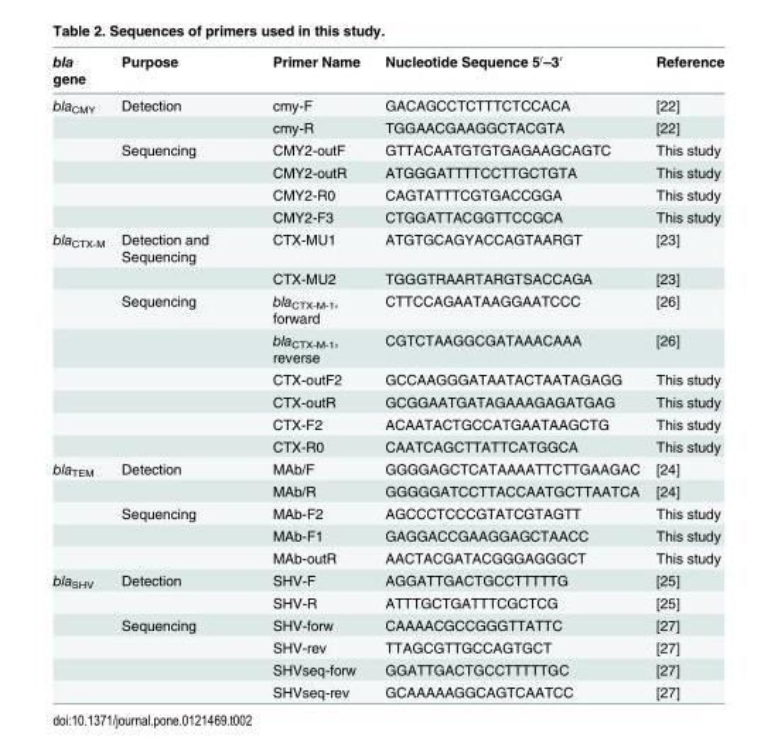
<table><thead><tr><td>bla gene</td><td>Purpose</td><td>Primer Name</td><td>Nucleotide Sequence 5′–3′</td><td>Reference</td></tr></thead><tbody><tr><td rowspan="6">bla<sub>CMY</sub></td><td>Detection</td><td>cmy-F</td><td>GACAGCCTCTTTCTCCACA</td><td>[22]</td></tr><tr><td></td><td>cmy-R</td><td>TGGAACGAAGGCTACGTA</td><td>[22]</td></tr><tr><td>Sequencing</td><td>CMY2-outF</td><td>GTTACAATGTGTGAGAAGCAGTC</td><td>This study</td></tr><tr><td></td><td>CMY2-outR</td><td>ATGGGATTTTCCTTGCTGTA</td><td>This study</td></tr><tr><td></td><td>CMY2-R0</td><td>CAGTATTTCGTGACCGGA</td><td>This study</td></tr><tr><td></td><td>CMY2-F3</td><td>CTGGATTACGGTTCCGCA</td><td>This study</td></tr><tr><td rowspan="8">bla<sub>CTX-M</sub></td><td>Detection and Sequencing</td><td>CTX-MU1</td><td>ATGTGCAGYACCAGTAARGT</td><td>[23]</td></tr><tr><td></td><td>CTX-MU2</td><td>TGGGTRAARTARGTSACCAGA</td><td>[23]</td></tr><tr><td>Sequencing</td><td>bla<sub>CTX-M-1</sub>, forward</td><td>CTTCCAGAATAAGGAATCCC</td><td>[26]</td></tr><tr><td></td><td>bla<sub>CTX-M-1</sub>, reverse</td><td>CGTCTAAGGCGATAAACAAA</td><td>[26]</td></tr><tr><td></td><td>CTX-outF2</td><td>GCCAAGGGATAATACTAATAGAGG</td><td>This study</td></tr><tr><td></td><td>CTX-outR</td><td>GCGGAATGATAGAAAGAGATGAG</td><td>This study</td></tr><tr><td></td><td>CTX-F2</td><td>ACAATACTGCCATGAATAAGCTG</td><td>This study</td></tr><tr><td></td><td>CTX-R0</td><td>CAATCAGCTTATTCATGGCA</td><td>This study</td></tr><tr><td rowspan="5">bla<sub>TEM</sub></td><td>Detection</td><td>MAb/F</td><td>GGGGAGCTCATAAAATTCTTGAAGAC</td><td>[24]</td></tr><tr><td></td><td>MAb/R</td><td>GGGGGATCCTTACCAATGCTTAATCA</td><td>[24]</td></tr><tr><td>Sequencing</td><td>MAb-F2</td><td>AGCCCTCCCGTATCGTAGTT</td><td>This study</td></tr><tr><td></td><td>MAb-F1</td><td>GAGGACCGAAGGAGCTAACC</td><td>This study</td></tr><tr><td></td><td>MAb-outR</td><td>AACTACGATACGGGAGGGCT</td><td>This study</td></tr><tr><td rowspan="6">bla<sub>SHV</sub></td><td>Detection</td><td>SHV-F</td><td>AGGATTGACTGCCTTTTTG</td><td>[25]</td></tr><tr><td></td><td>SHV-R</td><td>ATTTGCTGATTTCGCTCG</td><td>[25]</td></tr><tr><td>Sequencing</td><td>SHV-forw</td><td>CAAAACGCCGGGTTATTC</td><td>[27]</td></tr><tr><td></td><td>SHV-rev</td><td>TTAGCGTTGCCAGTGCT</td><td>[27]</td></tr><tr><td></td><td>SHVseq-forw</td><td>GGATTGACTGCCTTTTTGC</td><td>[27]</td></tr><tr><td></td><td>SHVseq-rev</td><td>GCAAAAAGGCAGTCAATCC</td><td>[27]</td></tr></tbody></table>